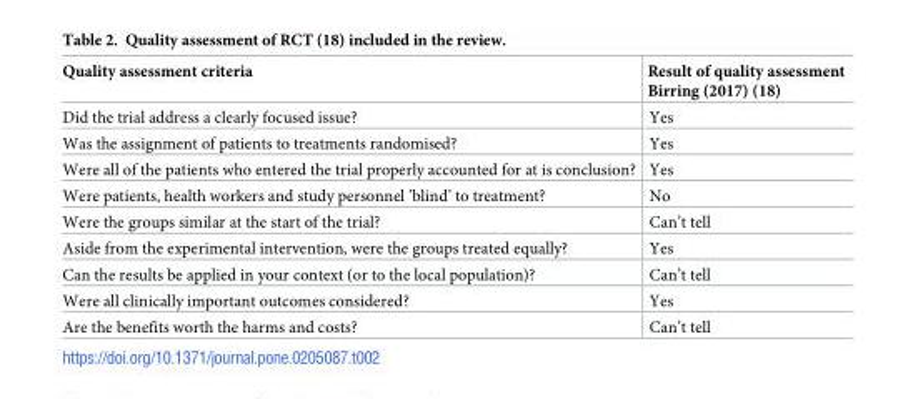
<table><thead><tr><td>Quality assessment criteria</td><td>Result of quality assessment Birring (2017) (18)</td></tr></thead><tbody><tr><td>Did the trial address a clearly focused issue?</td><td>Yes</td></tr><tr><td>Was the assignment of patients to treatments randomised?</td><td>Yes</td></tr><tr><td>Were all of the patients who entered the trial properly accounted for at is conclusion?</td><td>Yes</td></tr><tr><td>Were patients, health workers and study personnel ’blind’ to treatment?</td><td>No</td></tr><tr><td>Were the groups similar at the start of the trial?</td><td>Can’t tell</td></tr><tr><td>Aside from the experimental intervention, were the groups treated equally?</td><td>Yes</td></tr><tr><td>Can the results be applied in your context (or to the local population)?</td><td>Can’t tell</td></tr><tr><td>Were all clinically important outcomes considered?</td><td>Yes</td></tr><tr><td>Are the benefits worth the harms and costs?</td><td>Can’t tell</td></tr></tbody></table>